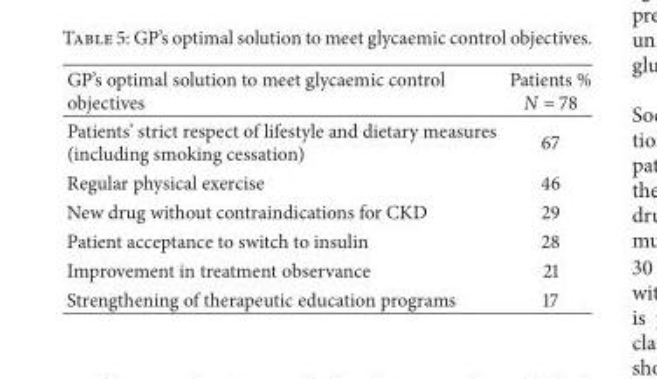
<table><thead><tr><td>GP’s optimal solution to meet glycaemic control objectives</td><td>Patients % N = 78</td></tr></thead><tbody><tr><td>Patients’ strict respect of lifestyle and dietary measures (including smoking cessation)</td><td>67</td></tr><tr><td>Regular physical exercise</td><td>46</td></tr><tr><td>New drug without contraindications for CKD</td><td>29</td></tr><tr><td>Patient acceptance to switch to insulin</td><td>28</td></tr><tr><td>Improvement in treatment observance</td><td>21</td></tr><tr><td>Strengthening of therapeutic education programs</td><td>17</td></tr></tbody></table>